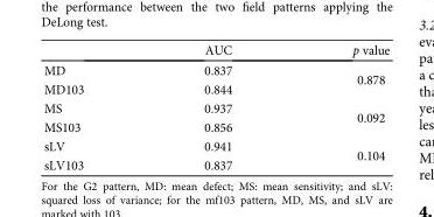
<table><thead><tr><td></td><td>AUC</td><td>p value</td></tr></thead><tbody><tr><td>MD</td><td>0.837</td><td rowspan="2">0.878</td></tr><tr><td>MD103</td><td>0.844</td></tr><tr><td>MS</td><td>0.937</td><td rowspan="2">0.092</td></tr><tr><td>MS103</td><td>0.856</td></tr><tr><td>sLV</td><td>0.941</td><td rowspan="2">0.104</td></tr><tr><td>sLV103</td><td>0.837</td></tr></tbody></table>